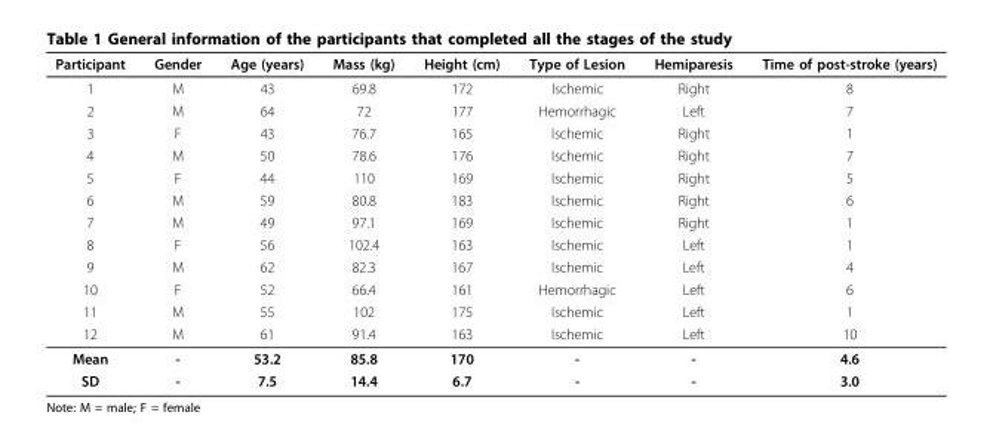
<table><thead><tr><td>Participant</td><td>Gender</td><td>Age (years)</td><td>Mass (kg)</td><td>Height (cm)</td><td>Type of Lesion</td><td>Hemiparesis</td><td>Time of post-stroke (years)</td></tr></thead><tbody><tr><td>1</td><td>M</td><td>43</td><td>69.8</td><td>172</td><td>Ischemic</td><td>Right</td><td>8</td></tr><tr><td>2</td><td>M</td><td>64</td><td>72</td><td>177</td><td>Hemorrhagic</td><td>Left</td><td>7</td></tr><tr><td>3</td><td>F</td><td>43</td><td>76.7</td><td>165</td><td>Ischemic</td><td>Right</td><td>1</td></tr><tr><td>4</td><td>M</td><td>50</td><td>78.6</td><td>176</td><td>Ischemic</td><td>Right</td><td>7</td></tr><tr><td>5</td><td>F</td><td>44</td><td>110</td><td>169</td><td>Ischemic</td><td>Right</td><td>5</td></tr><tr><td>6</td><td>M</td><td>59</td><td>80.8</td><td>183</td><td>Ischemic</td><td>Right</td><td>6</td></tr><tr><td>7</td><td>M</td><td>49</td><td>97.1</td><td>169</td><td>Ischemic</td><td>Right</td><td>1</td></tr><tr><td>8</td><td>F</td><td>56</td><td>102.4</td><td>163</td><td>Ischemic</td><td>Left</td><td>1</td></tr><tr><td>9</td><td>M</td><td>62</td><td>82.3</td><td>167</td><td>Ischemic</td><td>Left</td><td>4</td></tr><tr><td>10</td><td>F</td><td>52</td><td>66.4</td><td>161</td><td>Hemorrhagic</td><td>Left</td><td>6</td></tr><tr><td>11</td><td>M</td><td>55</td><td>102</td><td>175</td><td>Ischemic</td><td>Left</td><td>1</td></tr><tr><td>12</td><td>M</td><td>61</td><td>91.4</td><td>163</td><td>Ischemic</td><td>Left</td><td>10</td></tr><tr><td>Mean</td><td>-</td><td>53.2</td><td>85.8</td><td>170</td><td>-</td><td>-</td><td>4.6</td></tr><tr><td>SD</td><td>-</td><td>7.5</td><td>14.4</td><td>6.7</td><td>-</td><td>-</td><td>3.0</td></tr></tbody></table>